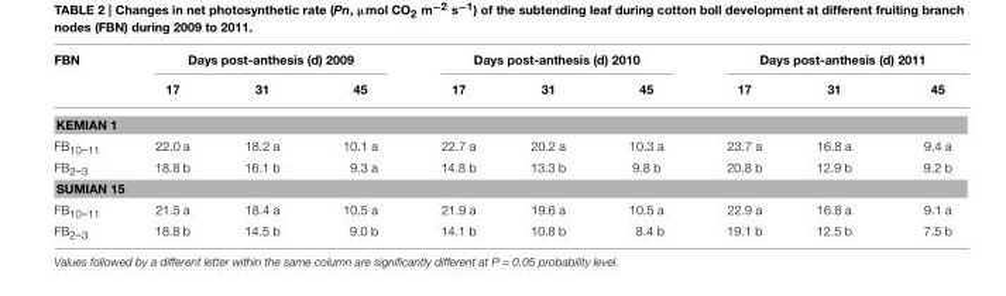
<table><thead><tr><td rowspan="2">FBN</td><td colspan="3">Days post-anthesis (d) 2009</td><td colspan="3">Days post-anthesis (d) 2010</td><td colspan="3">Days post-anthesis (d) 2011</td></tr><tr><td>17</td><td>31</td><td>45</td><td>17</td><td>31</td><td>45</td><td>17</td><td>31</td><td>45</td></tr></thead><tbody><tr><td colspan="10">KEMIAN 1</td></tr><tr><td>FB<sub>10–11</sub></td><td>22.0 a</td><td>18.2 a</td><td>10.1 a</td><td>22.7 a</td><td>20.2 a</td><td>10.3 a</td><td>23.7 a</td><td>16.8 a</td><td>9.4 a</td></tr><tr><td>FB<sub>2–3</sub></td><td>18.8 b</td><td>16.1 b</td><td>9.3 a</td><td>14.8 b</td><td>13.3 b</td><td>9.8 b</td><td>20.8 b</td><td>12.9 b</td><td>9.2 b</td></tr><tr><td colspan="10">SUMIAN 15</td></tr><tr><td>FB<sub>10–11</sub></td><td>21.5 a</td><td>18.4 a</td><td>10.5 a</td><td>21.9 a</td><td>19.6 a</td><td>10.5 a</td><td>22.9 a</td><td>16.8 a</td><td>9.1 a</td></tr><tr><td>FB<sub>2–3</sub></td><td>18.8 b</td><td>14.5 b</td><td>9.0 b</td><td>14.1 b</td><td>10.8 b</td><td>8.4 b</td><td>19.1 b</td><td>12.5 b</td><td>7.5 b</td></tr></tbody></table>